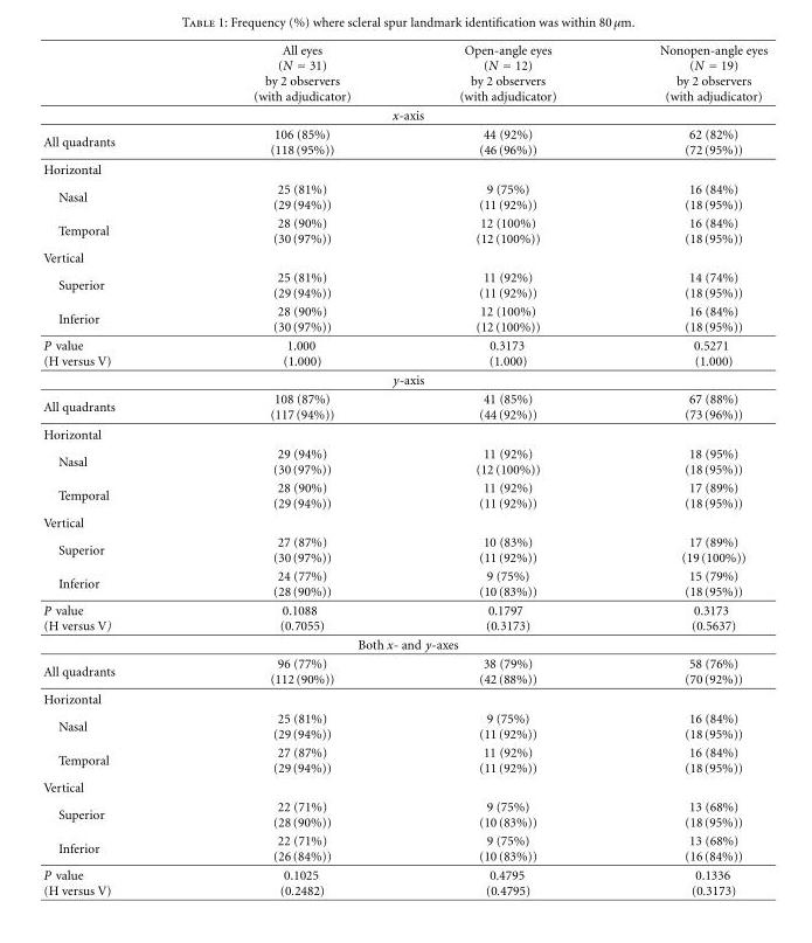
<table><thead><tr><td></td><td>All eyes (N = 31) by 2 observers (with adjudicator)</td><td>Open-angle eyes (N = 12) by 2 observers (with adjudicator)</td><td>Nonopen-angle eyes (N = 19) by 2 observers (with adjudicator)</td></tr></thead><tbody><tr><td colspan="4">x-axis</td></tr><tr><td>All quadrants</td><td>106 (85%) (118(95%))</td><td>44 (92%) (46(96%))</td><td>62 (82%) (72(95%))</td></tr><tr><td colspan="4">Horizontal</td></tr><tr><td>Nasal</td><td>25 (81%) (29(94%))</td><td>9 (75%) (11(92%))</td><td>16 (84%) (18(95%))</td></tr><tr><td>Temporal</td><td>28 (90%) (30(97%))</td><td>12 (100%) (12(100%))</td><td>16 (84%) (18(95%))</td></tr><tr><td colspan="4">Vertical</td></tr><tr><td>Superior</td><td>25 (81%) (29(94%))</td><td>11 (92%) (11(92%))</td><td>14 (74%) (18(95%))</td></tr><tr><td>Inferior</td><td>28 (90%) (30(97%))</td><td>12 (100%) (12(100%))</td><td>16 (84%) (18(95%))</td></tr><tr><td>P value (H versus V)</td><td>1.000 (1.000)</td><td>0.3173 (1.000)</td><td>0.5271 (1.000)</td></tr><tr><td colspan="4">y-axis</td></tr><tr><td>All quadrants</td><td>108 (87%) (117(94%))</td><td>41 (85%) (44(92%))</td><td>67 (88%) (73(96%))</td></tr><tr><td colspan="4">Horizontal</td></tr><tr><td>Nasal</td><td>29 (94%) (30(97%))</td><td>11 (92%) (12(100%))</td><td>18 (95%) (18(95%))</td></tr><tr><td>Temporal</td><td>28 (90%) (29(94%))</td><td>11 (92%) (11(92%))</td><td>17 (89%) (18(95%))</td></tr><tr><td colspan="4">Vertical</td></tr><tr><td>Superior</td><td>27 (87%) (30(97%))</td><td>10 (83%) (11(92%))</td><td>17 (89%) (19(100%))</td></tr><tr><td>Inferior</td><td>24 (77%) (28(90%))</td><td>9 (75%) (10(83%))</td><td>15 (79%) (18(95%))</td></tr><tr><td>P value (H versus V)</td><td>0.1088 (0.7055)</td><td>0.1797 (0.3173)</td><td>0.3173 (0.5637)</td></tr><tr><td colspan="4">Both x- and y-axes</td></tr><tr><td>All quadrants</td><td>96 (77%) (112(90%))</td><td>38 (79%) (42(88%))</td><td>58 (76%) (70(92%))</td></tr><tr><td colspan="4">Horizontal</td></tr><tr><td>Nasal</td><td>25 (81%) (29(94%))</td><td>9 (75%) (11(92%))</td><td>16 (84%) (18(95%))</td></tr><tr><td>Temporal</td><td>27 (87%) (29(94%))</td><td>11 (92%) (11(92%))</td><td>16 (84%) (18(95%))</td></tr><tr><td colspan="4">Vertical</td></tr><tr><td>Superior</td><td>22 (71%) (28(90%))</td><td>9 (75%) (10(83%))</td><td>13 (68%) (18(95%))</td></tr><tr><td>Inferior</td><td>22 (71%) (26(84%))</td><td>9 (75%) (10(83%))</td><td>13 (68%) (16(84%))</td></tr><tr><td>P value (H versus V)</td><td>0.1025 (0.2482)</td><td>0.4795 (0.4795)</td><td>0.1336 (0.3173)</td></tr></tbody></table>